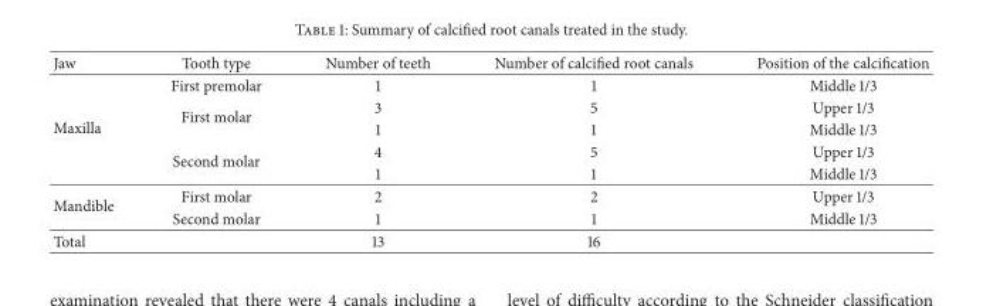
<table><thead><tr><td>Jaw</td><td>Tooth type</td><td>Number of teeth</td><td>Number of calcified root canals</td><td>Position of the calcification</td></tr></thead><tbody><tr><td rowspan="5">Maxilla</td><td>First premolar</td><td>1</td><td>1</td><td>Middle 1/3</td></tr><tr><td rowspan="2">First molar</td><td>3</td><td>5</td><td>Upper 1/3</td></tr><tr><td>1</td><td>1</td><td>Middle 1/3</td></tr><tr><td rowspan="2">Second molar</td><td>4</td><td>5</td><td>Upper 1/3</td></tr><tr><td>1</td><td>1</td><td>Middle 1/3</td></tr><tr><td rowspan="2">Mandible</td><td>First molar</td><td>2</td><td>2</td><td>Upper 1/3</td></tr><tr><td>Second molar</td><td>1</td><td>1</td><td>Middle 1/3</td></tr><tr><td>Total</td><td></td><td>13</td><td>16</td><td></td></tr></tbody></table>